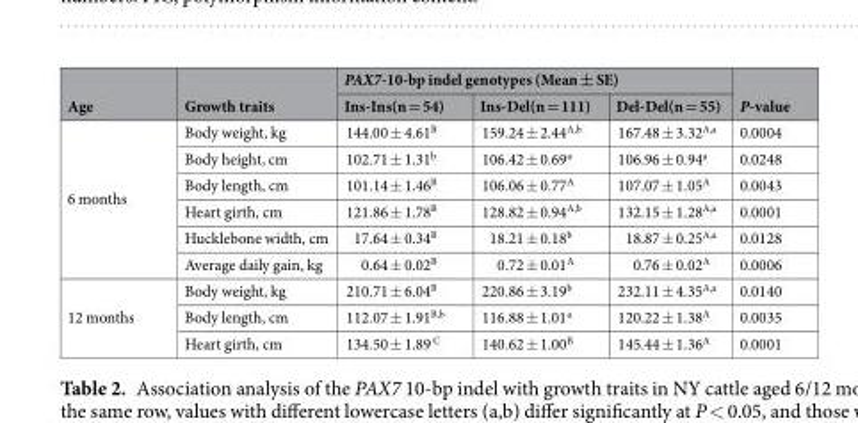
<table><thead><tr><td rowspan="2">Age</td><td rowspan="2">Growth traits</td><td colspan="3">PAX7-10-bp indel genotypes (Mean ± SE)</td><td rowspan="2">P-value</td></tr><tr><td>Ins-Ins(n = 54)</td><td>Ins-Del(n = 111)</td><td>Del-Del(n = 55)</td></tr></thead><tbody><tr><td rowspan="6">6 months</td><td>Body weight, kg</td><td>144.00 ± 4.61<sup>B</sup></td><td>159.24 ± 2.44<sup>A,b</sup></td><td>167.48 ± 3.32<sup>A,a</sup></td><td>0.0004</td></tr><tr><td>Body height, cm</td><td>102.71 ± 1.31<sup>b</sup></td><td>106.42 ± 0.69<sup>a</sup></td><td>106.96 ± 0.94<sup>a</sup></td><td>0.0248</td></tr><tr><td>Body length, cm</td><td>101.14 ± 1.46<sup>B</sup></td><td>106.06 ± 0.77<sup>A</sup></td><td>107.07 ± 1.05<sup>A</sup></td><td>0.0043</td></tr><tr><td>Heart girth, cm</td><td>121.86 ± 1.78<sup>B</sup></td><td>128.82 ± 0.94<sup>A,b</sup></td><td>132.15 ± 1.28<sup>A,a</sup></td><td>0.0001</td></tr><tr><td>Hucklebone width, cm</td><td>17.64 ± 0.34<sup>B</sup></td><td>18.21 ± 0.18<sup>b</sup></td><td>18.87 ± 0.25<sup>A,a</sup></td><td>0.0128</td></tr><tr><td>Average daily gain, kg</td><td>0.64 ± 0.02<sup>B</sup></td><td>0.72 ± 0.01<sup>A</sup></td><td>0.76 ± 0.02<sup>A</sup></td><td>0.0006</td></tr><tr><td rowspan="3">12 months</td><td>Body weight, kg</td><td>210.71 ± 6.04<sup>B</sup></td><td>220.86 ± 3.19<sup>b</sup></td><td>232.11 ± 4.35<sup>A,a</sup></td><td>0.0140</td></tr><tr><td>Body length, cm</td><td>112.07 ± 1.91<sup>B,b</sup></td><td>116.88 ± 1.01<sup>a</sup></td><td>120.22 ± 1.38<sup>A</sup></td><td>0.0035</td></tr><tr><td>Heart girth, cm</td><td>134.50 ± 1.89 <sup>C</sup></td><td>140.62 ± 1.00<sup>B</sup></td><td>145.44 ± 1.36<sup>A</sup></td><td>0.0001</td></tr></tbody></table>